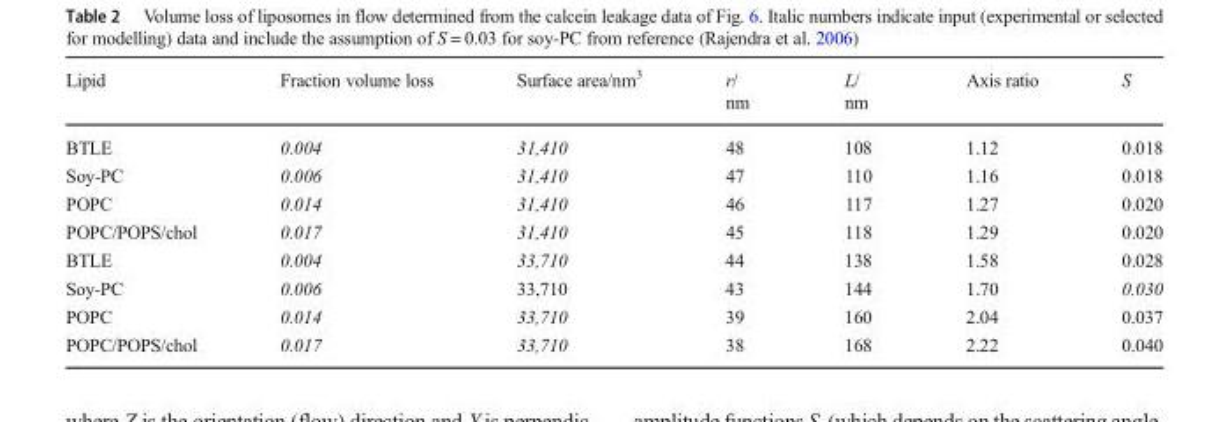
<table><thead><tr><td>Lipid</td><td>Fraction volume loss</td><td>Surface area/nm<sup>3</sup></td><td>r/ nm</td><td>L/ nm</td><td>Axis ratio</td><td>S</td></tr></thead><tbody><tr><td>BTLE</td><td>0.004</td><td>31,410</td><td>48</td><td>108</td><td>1.12</td><td>0.018</td></tr><tr><td>Soy-PC</td><td>0.006</td><td>31,410</td><td>47</td><td>110</td><td>1.16</td><td>0.018</td></tr><tr><td>POPC</td><td>0.014</td><td>31,410</td><td>46</td><td>117</td><td>1.27</td><td>0.020</td></tr><tr><td>POPC/POPS/chol</td><td>0.017</td><td>31,410</td><td>45</td><td>118</td><td>1.29</td><td>0.020</td></tr><tr><td>BTLE</td><td>0.004</td><td>33,710</td><td>44</td><td>138</td><td>1.58</td><td>0.028</td></tr><tr><td>Soy-PC</td><td>0.006</td><td>33,710</td><td>43</td><td>144</td><td>1.70</td><td>0.030</td></tr><tr><td>POPC</td><td>0.014</td><td>33,710</td><td>39</td><td>160</td><td>2.04</td><td>0.037</td></tr><tr><td>POPC/POPS/chol</td><td>0.017</td><td>33,710</td><td>38</td><td>168</td><td>2.22</td><td>0.040</td></tr></tbody></table>